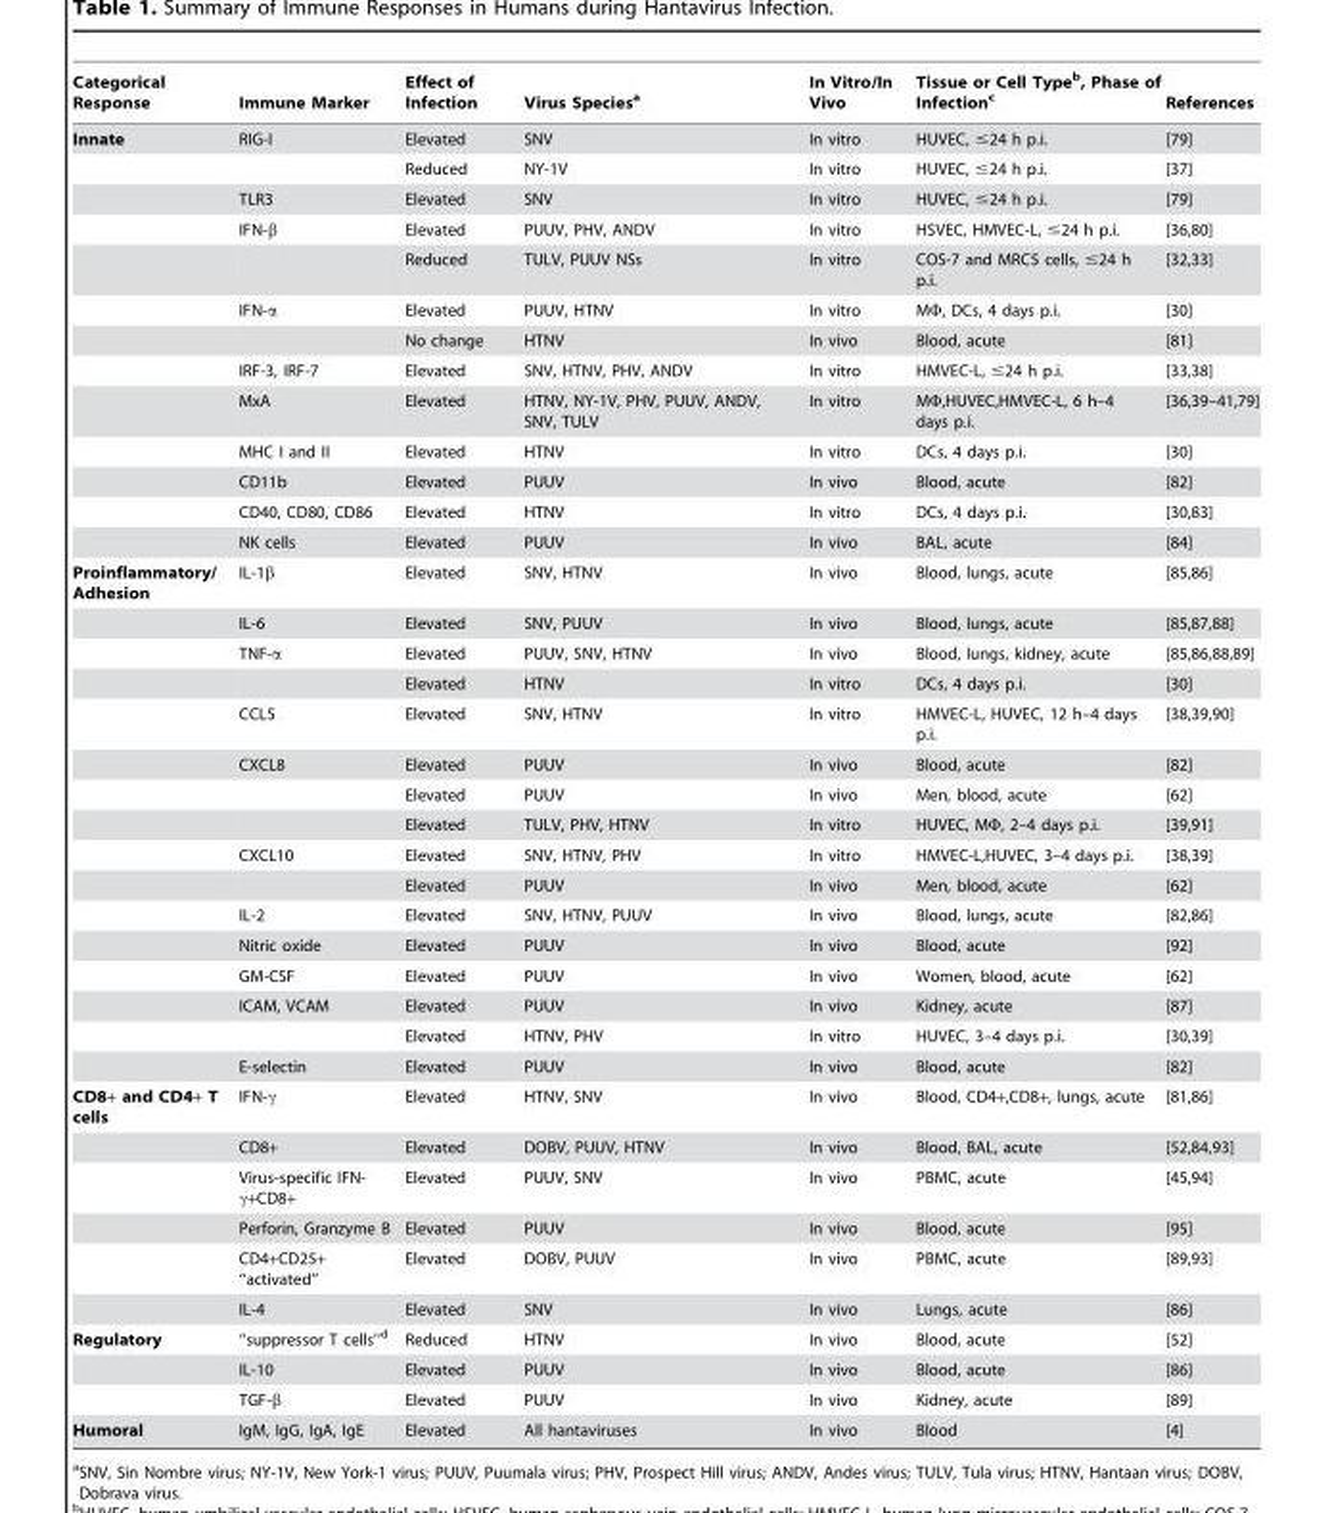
<table><thead><tr><td>Categorical Response</td><td>Immune Marker</td><td>Effect of Infection</td><td>Virus Species<sup>a</sup></td><td>In Vitro/In Vivo</td><td>Tissue or Cell Type<sup>b</sup>, Phase of Infection<sup>c</sup></td><td>References</td></tr></thead><tbody><tr><td rowspan="13">Innate</td><td>RIG-I</td><td>Elevated</td><td>SNV</td><td>In vitro</td><td>HUVEC, ≤24 h p.i.</td><td>[79]</td></tr><tr><td></td><td>Reduced</td><td>NY-1V</td><td>In vitro</td><td>HUVEC, ≤24 h p.i.</td><td>[37]</td></tr><tr><td>TLR3</td><td>Elevated</td><td>SNV</td><td>In vitro</td><td>HUVEC, ≤24 h p.i.</td><td>[79]</td></tr><tr><td>IFN-β</td><td>Elevated</td><td>PUUV, PHV, ANDV</td><td>In vitro</td><td>HSVEC, HMVEC-L, ≤24 h p.i.</td><td>[36,80]</td></tr><tr><td></td><td>Reduced</td><td>TULV, PUUV NSs</td><td>In vitro</td><td>COS-7 and MRC5 cells, ≤24 h p.i.</td><td>[32,33]</td></tr><tr><td>IFN-α</td><td>Elevated</td><td>PUUV, HTNV</td><td>In vitro</td><td>MФ, DCs, 4 days p.i.</td><td>[30]</td></tr><tr><td></td><td>No change</td><td>HTNV</td><td>In vivo</td><td>Blood, acute</td><td>[81]</td></tr><tr><td>IRF-3, IRF-7</td><td>Elevated</td><td>SNV, HTNV, PHV, ANDV</td><td>In vitro</td><td>HMVEC-L, ≤24 h p.i.</td><td>[33,38]</td></tr><tr><td>MxA</td><td>Elevated</td><td>HTNV, NY-1V, PHV, PUUV, ANDV, SNV, TULV</td><td>In vitro</td><td>MФ,HUVEC,HMVEC-L, 6 h–4 days p.i.</td><td>[36,39–41,79]</td></tr><tr><td>MHC I and II</td><td>Elevated</td><td>HTNV</td><td>In vitro</td><td>DCs, 4 days p.i.</td><td>[30]</td></tr><tr><td>CD11b</td><td>Elevated</td><td>PUUV</td><td>In vivo</td><td>Blood, acute</td><td>[82]</td></tr><tr><td>CD40, CD80, CD86</td><td>Elevated</td><td>HTNV</td><td>In vitro</td><td>DCs, 4 days p.i.</td><td>[30,83]</td></tr><tr><td>NK cells</td><td>Elevated</td><td>PUUV</td><td>In vivo</td><td>BAL, acute</td><td>[84]</td></tr><tr><td rowspan="16">Proinflammatory/ Adhesion</td><td>IL-1β</td><td>Elevated</td><td>SNV, HTNV</td><td>In vivo</td><td>Blood, lungs, acute</td><td>[85,86]</td></tr><tr><td>IL-6</td><td>Elevated</td><td>SNV, PUUV</td><td>In vivo</td><td>Blood, lungs, acute</td><td>[85,87,88]</td></tr><tr><td>TNF-α</td><td>Elevated</td><td>PUUV, SNV, HTNV</td><td>In vivo</td><td>Blood, lungs, kidney, acute</td><td>[85,86,88,89]</td></tr><tr><td></td><td>Elevated</td><td>HTNV</td><td>In vitro</td><td>DCs, 4 days p.i.</td><td>[30]</td></tr><tr><td>CCL5</td><td>Elevated</td><td>SNV, HTNV</td><td>In vitro</td><td>HMVEC-L, HUVEC, 12 h–4 days p.i.</td><td>[38,39,90]</td></tr><tr><td>CXCL8</td><td>Elevated</td><td>PUUV</td><td>In vivo</td><td>Blood, acute</td><td>[82]</td></tr><tr><td></td><td>Elevated</td><td>PUUV</td><td>In vivo</td><td>Men, blood, acute</td><td>[62]</td></tr><tr><td></td><td>Elevated</td><td>TULV, PHV, HTNV</td><td>In vitro</td><td>HUVEC, MФ, 2–4 days p.i.</td><td>[39,91]</td></tr><tr><td>CXCL10</td><td>Elevated</td><td>SNV, HTNV, PHV</td><td>In vitro</td><td>HMVEC-L,HUVEC, 3–4 days p.i.</td><td>[38,39]</td></tr><tr><td></td><td>Elevated</td><td>PUUV</td><td>In vivo</td><td>Men, blood, acute</td><td>[62]</td></tr><tr><td>IL-2</td><td>Elevated</td><td>SNV, HTNV, PUUV</td><td>In vivo</td><td>Blood, lungs, acute</td><td>[82,86]</td></tr><tr><td>Nitric oxide</td><td>Elevated</td><td>PUUV</td><td>In vivo</td><td>Blood, acute</td><td>[92]</td></tr><tr><td>GM-CSF</td><td>Elevated</td><td>PUUV</td><td>In vivo</td><td>Women, blood, acute</td><td>[62]</td></tr><tr><td>ICAM, VCAM</td><td>Elevated</td><td>PUUV</td><td>In vivo</td><td>Kidney, acute</td><td>[87]</td></tr><tr><td></td><td>Elevated</td><td>HTNV, PHV</td><td>In vitro</td><td>HUVEC, 3–4 days p.i.</td><td>[30,39]</td></tr><tr><td>E-selectin</td><td>Elevated</td><td>PUUV</td><td>In vivo</td><td>Blood, acute</td><td>[82]</td></tr><tr><td rowspan="6">CD8+ and CD4+ T cells</td><td>IFN-γ</td><td>Elevated</td><td>HTNV, SNV</td><td>In vivo</td><td>Blood, CD4+,CD8+, lungs, acute</td><td>[81,86]</td></tr><tr><td>CD8+</td><td>Elevated</td><td>DOBV, PUUV, HTNV</td><td>In vivo</td><td>Blood, BAL, acute</td><td>[52,84,93]</td></tr><tr><td>Virus-specific IFN- γ+CD8+</td><td>Elevated</td><td>PUUV, SNV</td><td>In vivo</td><td>PBMC, acute</td><td>[45,94]</td></tr><tr><td>Perforin, Granzyme B</td><td>Elevated</td><td>PUUV</td><td>In vivo</td><td>Blood, acute</td><td>[95]</td></tr><tr><td>CD4+CD25+ ‘‘activated’’</td><td>Elevated</td><td>DOBV, PUUV</td><td>In vivo</td><td>PBMC, acute</td><td>[89,93]</td></tr><tr><td>IL-4</td><td>Elevated</td><td>SNV</td><td>In vivo</td><td>Lungs, acute</td><td>[86]</td></tr><tr><td rowspan="3">Regulatory</td><td>‘‘suppressor T cells’’d</td><td>Reduced</td><td>HTNV</td><td>In vivo</td><td>Blood, acute</td><td>[52]</td></tr><tr><td>IL-10</td><td>Elevated</td><td>PUUV</td><td>In vivo</td><td>Blood, acute</td><td>[86]</td></tr><tr><td>TGF-β</td><td>Elevated</td><td>PUUV</td><td>In vivo</td><td>Kidney, acute</td><td>[89]</td></tr><tr><td>Humoral</td><td>IgM, IgG, IgA, IgE</td><td>Elevated</td><td>All hantaviruses</td><td>In vivo</td><td>Blood</td><td>[4]</td></tr></tbody></table>